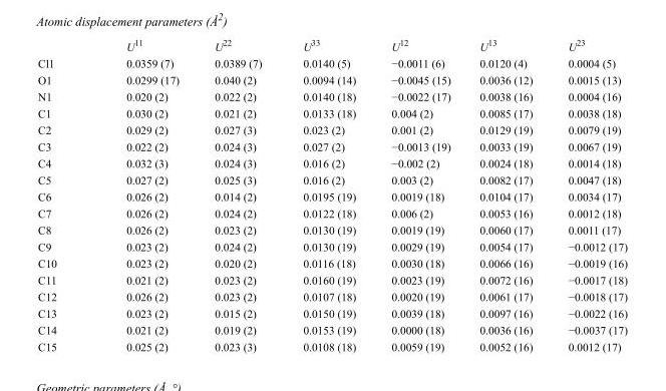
<table><thead><tr><td></td><td>U<sup>11</sup></td><td>U<sup>22</sup></td><td>U<sup>33</sup></td><td>U<sup>12</sup></td><td>U<sup>13</sup></td><td>U<sup>23</sup></td></tr></thead><tbody><tr><td>Cl1</td><td>0.0359 (7)</td><td>0.0389 (7)</td><td>0.0140 (5)</td><td>−0.0011 (6)</td><td>0.0120 (4)</td><td>0.0004 (5)</td></tr><tr><td>O1</td><td>0.0299 (17)</td><td>0.040 (2)</td><td>0.0094 (14)</td><td>−0.0045 (15)</td><td>0.0036 (12)</td><td>0.0015 (13)</td></tr><tr><td>N1</td><td>0.020 (2)</td><td>0.022 (2)</td><td>0.0140 (18)</td><td>−0.0022 (17)</td><td>0.0038 (16)</td><td>0.0004 (16)</td></tr><tr><td>C1</td><td>0.030 (2)</td><td>0.021 (2)</td><td>0.0133 (18)</td><td>0.004 (2)</td><td>0.0085 (17)</td><td>0.0038 (18)</td></tr><tr><td>C2</td><td>0.029 (2)</td><td>0.027 (3)</td><td>0.023 (2)</td><td>0.001 (2)</td><td>0.0129 (19)</td><td>0.0079 (19)</td></tr><tr><td>C3</td><td>0.022 (2)</td><td>0.024 (3)</td><td>0.027 (2)</td><td>−0.0013 (19)</td><td>0.0033 (19)</td><td>0.0067 (19)</td></tr><tr><td>C4</td><td>0.032 (3)</td><td>0.024 (3)</td><td>0.016 (2)</td><td>−0.002 (2)</td><td>0.0024 (18)</td><td>0.0014 (18)</td></tr><tr><td>C5</td><td>0.027 (2)</td><td>0.025 (3)</td><td>0.016 (2)</td><td>0.003 (2)</td><td>0.0082 (17)</td><td>0.0047 (18)</td></tr><tr><td>C6</td><td>0.026 (2)</td><td>0.014 (2)</td><td>0.0195 (19)</td><td>0.0019 (18)</td><td>0.0104 (17)</td><td>0.0034 (17)</td></tr><tr><td>C7</td><td>0.026 (2)</td><td>0.024 (2)</td><td>0.0122 (18)</td><td>0.006 (2)</td><td>0.0053 (16)</td><td>0.0012 (18)</td></tr><tr><td>C8</td><td>0.026 (2)</td><td>0.023 (2)</td><td>0.0130 (19)</td><td>0.0019 (19)</td><td>0.0060 (17)</td><td>0.0011 (17)</td></tr><tr><td>C9</td><td>0.023 (2)</td><td>0.024 (2)</td><td>0.0130 (19)</td><td>0.0029 (19)</td><td>0.0054 (17)</td><td>−0.0012 (17)</td></tr><tr><td>C10</td><td>0.023 (2)</td><td>0.020 (2)</td><td>0.0116 (18)</td><td>0.0030 (18)</td><td>0.0066 (16)</td><td>−0.0019 (16)</td></tr><tr><td>C11</td><td>0.021 (2)</td><td>0.023 (2)</td><td>0.0160 (19)</td><td>0.0023 (19)</td><td>0.0072 (16)</td><td>−0.0017 (18)</td></tr><tr><td>C12</td><td>0.026 (2)</td><td>0.023 (2)</td><td>0.0107 (18)</td><td>0.0020 (19)</td><td>0.0061 (17)</td><td>−0.0018 (17)</td></tr><tr><td>C13</td><td>0.023 (2)</td><td>0.015 (2)</td><td>0.0150 (19)</td><td>0.0039 (18)</td><td>0.0097 (16)</td><td>−0.0022 (16)</td></tr><tr><td>C14</td><td>0.021 (2)</td><td>0.019 (2)</td><td>0.0153 (19)</td><td>0.0000 (18)</td><td>0.0036 (16)</td><td>−0.0037 (17)</td></tr><tr><td>C15</td><td>0.025 (2)</td><td>0.023 (3)</td><td>0.0108 (18)</td><td>0.0059 (19)</td><td>0.0052 (16)</td><td>0.0012 (17)</td></tr></tbody></table>